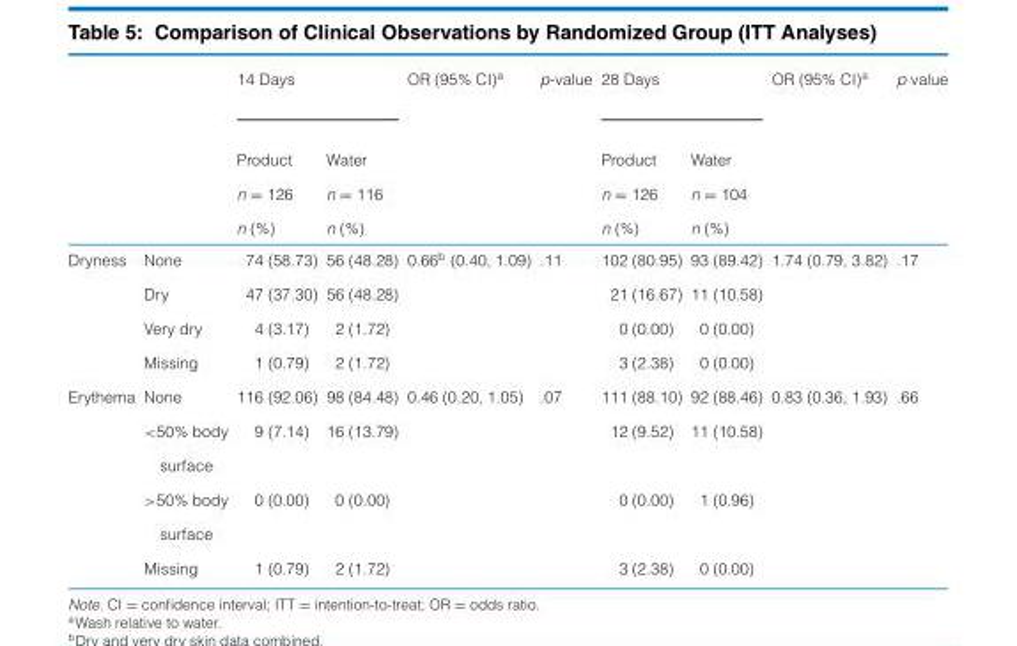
<table><thead><tr><td rowspan="4"></td><td rowspan="4"></td><td colspan="2">14 Days</td><td rowspan="4">OR (95% CI)<sup>a</sup></td><td rowspan="4">p-value</td><td colspan="2">28 Days</td><td rowspan="4">OR (95% CI)<sup>a</sup></td><td rowspan="4">p value</td></tr><tr><td rowspan="3">Product n = 126 n (%)</td><td rowspan="3">Water n = 116 n (%)</td><td rowspan="3">Product n = 126 n (%)</td><td rowspan="3">Water n = 104 n (%)</td></tr><tr></tr><tr></tr></thead><tbody><tr><td rowspan="4">Dryness</td><td>None</td><td>74 (58.73)</td><td>56 (48.28)</td><td>0.66<sup>b</sup> (0.40, 1.09)</td><td>.11</td><td>102 (80.95)</td><td>93 (89.42)</td><td>1.74 (0.79, 3.82)</td><td>.17</td></tr><tr><td>Dry</td><td>47 (37.30)</td><td>56 (48.28)</td><td></td><td></td><td>21 (16.67)</td><td>11 (10.58)</td><td></td><td></td></tr><tr><td>Very dry</td><td>4 (3.17)</td><td>2 (1.72)</td><td></td><td></td><td>0 (0.00)</td><td>0 (0.00)</td><td></td><td></td></tr><tr><td>Missing</td><td>1 (0.79)</td><td>2 (1.72)</td><td></td><td></td><td>3 (2.38)</td><td>0 (0.00)</td><td></td><td></td></tr><tr><td rowspan="6">Erythema</td><td>None</td><td>116 (92.06)</td><td>98 (84.48)</td><td>0.46 (0.20, 1.05)</td><td>.07</td><td>111 (88.10)</td><td>92 (88.46)</td><td>0.83 (0.36, 1.93)</td><td>.66</td></tr><tr><td>&lt;50% body</td><td>9 (7.14)</td><td>16 (13.79)</td><td></td><td></td><td>12 (9.52)</td><td>11 (10.58)</td><td></td><td></td></tr><tr><td>surface</td><td></td><td></td><td></td><td></td><td></td><td></td><td></td><td></td></tr><tr><td>&gt;50% body</td><td>0 (0.00)</td><td>0 (0.00)</td><td></td><td></td><td>0 (0.00)</td><td>1 (0.96)</td><td></td><td></td></tr><tr><td>surface</td><td></td><td></td><td></td><td></td><td></td><td></td><td></td><td></td></tr><tr><td>Missing</td><td>1 (0.79)</td><td>2 (1.72)</td><td></td><td></td><td>3 (2.38)</td><td>0 (0.00)</td><td></td><td></td></tr></tbody></table>